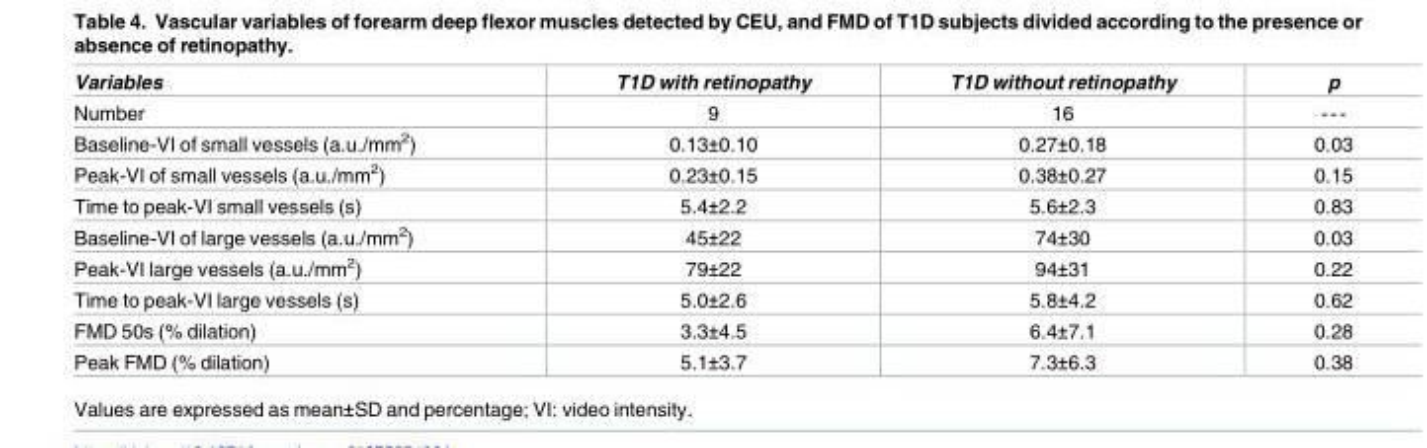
<table><thead><tr><td>Variables</td><td>T1D with retinopathy</td><td>T1D without retinopathy</td><td>p</td></tr></thead><tbody><tr><td>Number</td><td>9</td><td>16</td><td>---</td></tr><tr><td>Baseline-VI of small vessels (a.u./mm<sup>2</sup>)</td><td>0.13±0.10</td><td>0.27±0.18</td><td>0.03</td></tr><tr><td>Peak-VI of small vessels (a.u./mm<sup>2</sup>)</td><td>0.23±0.15</td><td>0.38±0.27</td><td>0.15</td></tr><tr><td>Time to peak-VI small vessels (s)</td><td>5.4±2.2</td><td>5.6±2.3</td><td>0.83</td></tr><tr><td>Baseline-VI of large vessels (a.u./mm<sup>2</sup>)</td><td>45±22</td><td>74±30</td><td>0.03</td></tr><tr><td>Peak-VI large vessels (a.u./mm<sup>2</sup>)</td><td>79±22</td><td>94±31</td><td>0.22</td></tr><tr><td>Time to peak-VI large vessels (s)</td><td>5.0±2.6</td><td>5.8±4.2</td><td>0.62</td></tr><tr><td>FMD 50s (% dilation)</td><td>3.3±4.5</td><td>6.4±7.1</td><td>0.28</td></tr><tr><td>Peak FMD (% dilation)</td><td>5.1±3.7</td><td>7.3±6.3</td><td>0.38</td></tr></tbody></table>